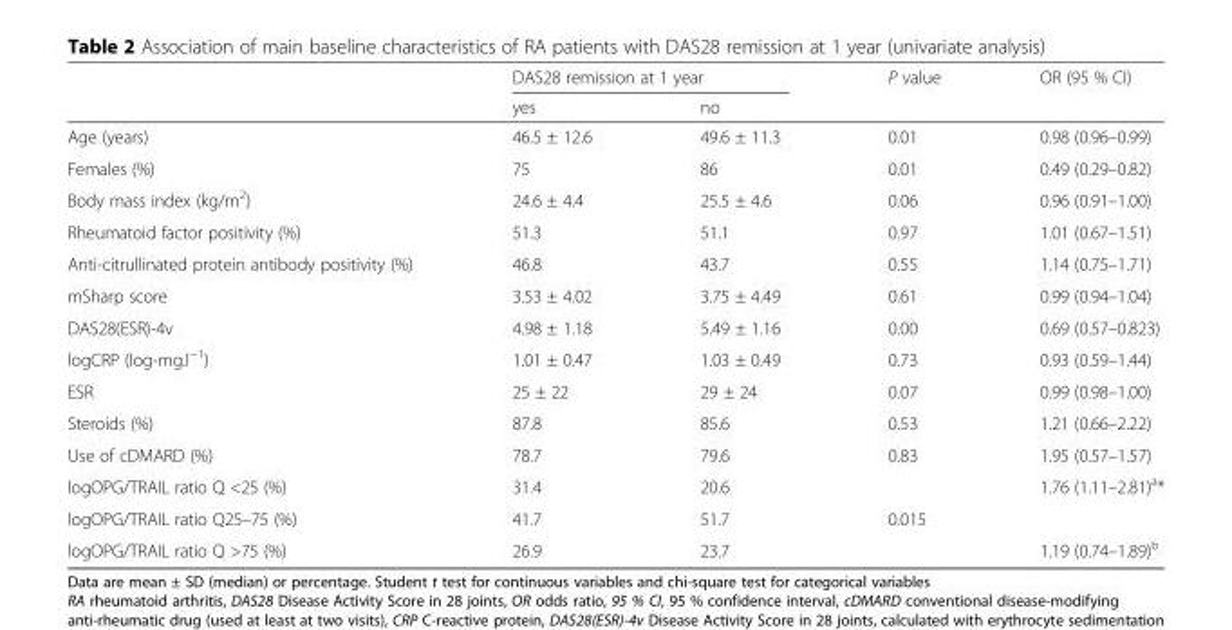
<table><thead><tr><td rowspan="2"></td><td colspan="2">DAS28 remission at 1 year</td><td rowspan="2">P value</td><td rowspan="2">OR (95 % CI)</td></tr><tr><td>yes</td><td>no</td></tr></thead><tbody><tr><td>Age (years)</td><td>46.5 ± 12.6</td><td>49.6 ± 11.3</td><td>0.01</td><td>0.98 (0.96–0.99)</td></tr><tr><td>Females (%)</td><td>75</td><td>86</td><td>0.01</td><td>0.49 (0.29–0.82)</td></tr><tr><td>Body mass index (kg/m<sup>2</sup>)</td><td>24.6 ± 4.4</td><td>25.5 ± 4.6</td><td>0.06</td><td>0.96 (0.91–1.00)</td></tr><tr><td>Rheumatoid factor positivity (%)</td><td>51.3</td><td>51.1</td><td>0.97</td><td>1.01 (0.67–1.51)</td></tr><tr><td>Anti-citrullinated protein antibody positivity (%)</td><td>46.8</td><td>43.7</td><td>0.55</td><td>1.14 (0.75–1.71)</td></tr><tr><td>mSharp score</td><td>3.53 ± 4.02</td><td>3.75 ± 4.49</td><td>0.61</td><td>0.99 (0.94–1.04)</td></tr><tr><td>DAS28(ESR)-4v</td><td>4.98 ± 1.18</td><td>5.49 ± 1.16</td><td>0.00</td><td>0.69 (0.57–0.823)</td></tr><tr><td>logCRP (log-mg.l<sup>−1</sup>)</td><td>1.01 ± 0.47</td><td>1.03 ± 0.49</td><td>0.73</td><td>0.93 (0.59–1.44)</td></tr><tr><td>ESR</td><td>25 ± 22</td><td>29 ± 24</td><td>0.07</td><td>0.99 (0.98–1.00)</td></tr><tr><td>Steroids (%)</td><td>87.8</td><td>85.6</td><td>0.53</td><td>1.21 (0.66–2.22)</td></tr><tr><td>Use of cDMARD (%)</td><td>78.7</td><td>79.6</td><td>0.83</td><td>1.95 (0.57–1.57)</td></tr><tr><td>logOPG/TRAIL ratio Q &lt;25 (%)</td><td>31.4</td><td>20.6</td><td></td><td>1.76 (1.11–2.81)<sup>a</sup>*</td></tr><tr><td>logOPG/TRAIL ratio Q25–75 (%)</td><td>41.7</td><td>51.7</td><td>0.015</td><td></td></tr><tr><td>logOPG/TRAIL ratio Q &gt;75 (%)</td><td>26.9</td><td>23.7</td><td></td><td>1.19 (0.74–1.89)<sup>b</sup></td></tr></tbody></table>